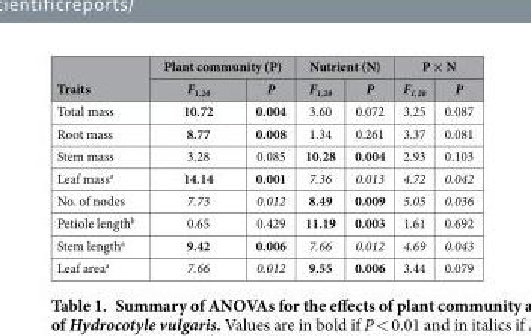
<table><thead><tr><td rowspan="2">Traits</td><td colspan="2">Plant community (P)</td><td colspan="2">Nutrient (N)</td><td colspan="2">P × N</td></tr><tr><td>F<sub>1,20</sub></td><td>P</td><td>F<sub>1,20</sub></td><td>P</td><td>F<sub>1,20</sub></td><td>P</td></tr></thead><tbody><tr><td>Total mass</td><td>10.72</td><td>0.004</td><td>3.60</td><td>0.072</td><td>3.25</td><td>0.087</td></tr><tr><td>Root mass</td><td>8.77</td><td>0.008</td><td>1.34</td><td>0.261</td><td>3.37</td><td>0.081</td></tr><tr><td>Stem mass</td><td>3.28</td><td>0.085</td><td>10.28</td><td>0.004</td><td>2.93</td><td>0.103</td></tr><tr><td>Leaf mass<sup>a</sup></td><td>14.14</td><td>0.001</td><td>7.36</td><td>0.013</td><td>4.72</td><td>0.042</td></tr><tr><td>No. of nodes</td><td>7.73</td><td>0.012</td><td>8.49</td><td>0.009</td><td>5.05</td><td>0.036</td></tr><tr><td>Petiole length<sup>b</sup></td><td>0.65</td><td>0.429</td><td>11.19</td><td>0.003</td><td>1.61</td><td>0.692</td></tr><tr><td>Stem length<sup>a</sup></td><td>9.42</td><td>0.006</td><td>7.66</td><td>0.012</td><td>4.69</td><td>0.043</td></tr><tr><td>Leaf area<sup>a</sup></td><td>7.66</td><td>0.012</td><td>9.55</td><td>0.006</td><td>3.44</td><td>0.079</td></tr></tbody></table>